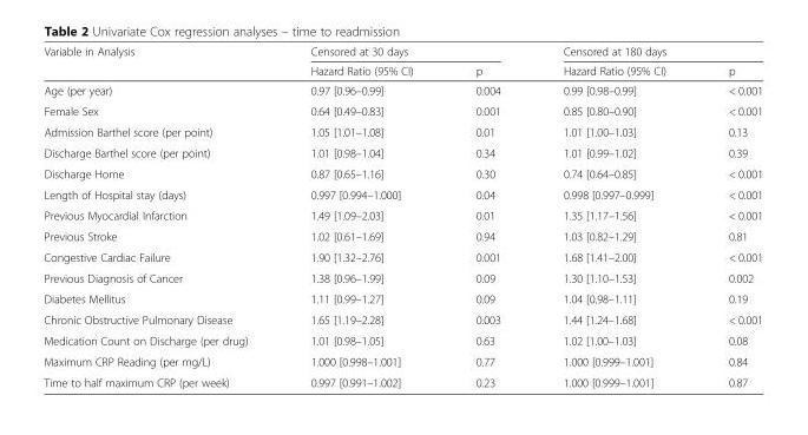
<table><thead><tr><td rowspan="2">Variable in Analysis</td><td colspan="2">Censored at 30 days</td><td colspan="2">Censored at 180 days</td></tr><tr><td>Hazard Ratio (95% CI)</td><td>p</td><td>Hazard Ratio (95% CI)</td><td>p</td></tr></thead><tbody><tr><td>Age (per year)</td><td>0.97 [0.96–0.99]</td><td>0.004</td><td>0.99 [0.98–0.99]</td><td>&lt; 0.001</td></tr><tr><td>Female Sex</td><td>0.64 [0.49–0.83]</td><td>0.001</td><td>0.85 [0.80–0.90]</td><td>&lt; 0.001</td></tr><tr><td>Admission Barthel score (per point)</td><td>1.05 [1.01–1.08]</td><td>0.01</td><td>1.01 [1.00–1.03]</td><td>0.13</td></tr><tr><td>Discharge Barthel score (per point)</td><td>1.01 [0.98–1.04]</td><td>0.34</td><td>1.01 [0.99–1.02]</td><td>0.39</td></tr><tr><td>Discharge Home</td><td>0.87 [0.65–1.16]</td><td>0.30</td><td>0.74 [0.64–0.85]</td><td>&lt; 0.001</td></tr><tr><td>Length of Hospital stay (days)</td><td>0.997 [0.994–1.000]</td><td>0.04</td><td>0.998 [0.997–0.999]</td><td>&lt; 0.001</td></tr><tr><td>Previous Myocardial Infarction</td><td>1.49 [1.09–2.03]</td><td>0.01</td><td>1.35 [1.17–1.56]</td><td>&lt; 0.001</td></tr><tr><td>Previous Stroke</td><td>1.02 [0.61–1.69]</td><td>0.94</td><td>1.03 [0.82–1.29]</td><td>0.81</td></tr><tr><td>Congestive Cardiac Failure</td><td>1.90 [1.32–2.76]</td><td>0.001</td><td>1.68 [1.41–2.00]</td><td>&lt; 0.001</td></tr><tr><td>Previous Diagnosis of Cancer</td><td>1.38 [0.96–1.99]</td><td>0.09</td><td>1.30 [1.10–1.53]</td><td>0.002</td></tr><tr><td>Diabetes Mellitus</td><td>1.11 [0.99–1.27]</td><td>0.09</td><td>1.04 [0.98–1.11]</td><td>0.19</td></tr><tr><td>Chronic Obstructive Pulmonary Disease</td><td>1.65 [1.19–2.28]</td><td>0.003</td><td>1.44 [1.24–1.68]</td><td>&lt; 0.001</td></tr><tr><td>Medication Count on Discharge (per drug)</td><td>1.01 [0.98–1.05]</td><td>0.63</td><td>1.02 [1.00–1.03]</td><td>0.08</td></tr><tr><td>Maximum CRP Reading (per mg/L)</td><td>1.000 [0.998–1.001]</td><td>0.77</td><td>1.000 [0.999–1.001]</td><td>0.84</td></tr><tr><td>Time to half maximum CRP (per week)</td><td>0.997 [0.991–1.002]</td><td>0.23</td><td>1.000 [0.999–1.001]</td><td>0.87</td></tr></tbody></table>